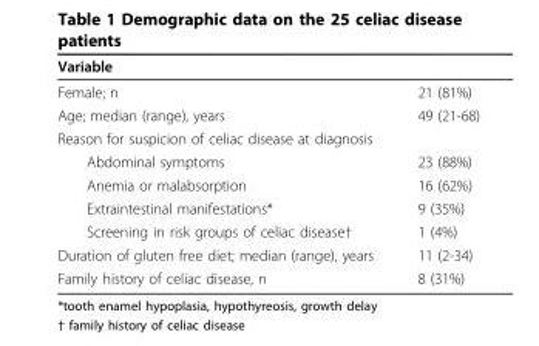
<table><thead><tr><td>Variable</td><td></td></tr></thead><tbody><tr><td>Female; n</td><td>21 (81%)</td></tr><tr><td>Age; median (range), years</td><td>49 (21-68)</td></tr><tr><td colspan="2">Reason for suspicion of celiac disease at diagnosis</td></tr><tr><td>Abdominal symptoms</td><td>23 (88%)</td></tr><tr><td>Anemia or malabsorption</td><td>16 (62%)</td></tr><tr><td>Extraintestinal manifestations*</td><td>9 (35%)</td></tr><tr><td>Screening in risk groups of celiac disease†</td><td>1 (4%)</td></tr><tr><td>Duration of gluten free diet; median (range), years</td><td>11 (2-34)</td></tr><tr><td>Family history of celiac disease, n</td><td>8 (31%)</td></tr></tbody></table>